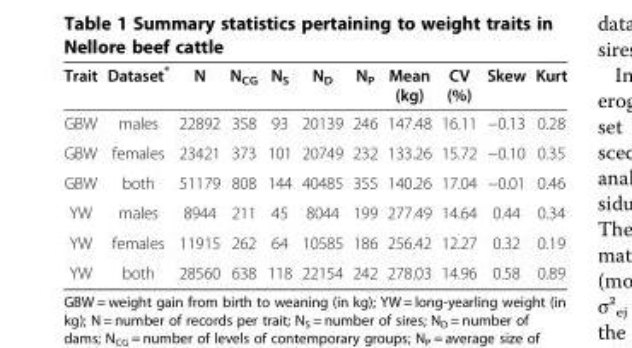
<table><thead><tr><td>Trait</td><td>Dataset*</td><td>N</td><td>N<sub>CG</sub></td><td>N<sub>S</sub></td><td>N<sub>D</sub></td><td>N<sub>P</sub></td><td>Mean (kg)</td><td>CV (%)</td><td>Skew</td><td>Kurt</td></tr></thead><tbody><tr><td>GBW</td><td>males</td><td>22892</td><td>358</td><td>93</td><td>20139</td><td>246</td><td>147.48</td><td>16.11</td><td>−0.13</td><td>0.28</td></tr><tr><td>GBW</td><td>females</td><td>23421</td><td>373</td><td>101</td><td>20749</td><td>232</td><td>133.26</td><td>15.72</td><td>−0.10</td><td>0.35</td></tr><tr><td>GBW</td><td>both</td><td>51179</td><td>808</td><td>144</td><td>40485</td><td>355</td><td>140.26</td><td>17.04</td><td>−0.01</td><td>0.46</td></tr><tr><td>YW</td><td>males</td><td>8944</td><td>211</td><td>45</td><td>8044</td><td>199</td><td>277.49</td><td>14.64</td><td>0.44</td><td>0.34</td></tr><tr><td>YW</td><td>females</td><td>11915</td><td>262</td><td>64</td><td>10585</td><td>186</td><td>256.42</td><td>12.27</td><td>0.32</td><td>0.19</td></tr><tr><td>YW</td><td>both</td><td>28560</td><td>638</td><td>118</td><td>22154</td><td>242</td><td>278.03</td><td>14.96</td><td>0.58</td><td>0.89</td></tr></tbody></table>